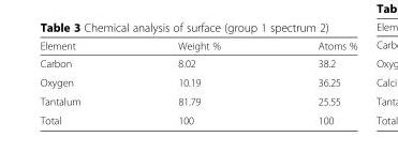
<table><thead><tr><td>Element</td><td>Weight %</td><td>Atoms %</td></tr></thead><tbody><tr><td>Carbon</td><td>8.02</td><td>38.2</td></tr><tr><td>Oxygen</td><td>10.19</td><td>36.25</td></tr><tr><td>Tantalum</td><td>81.79</td><td>25.55</td></tr><tr><td>Total</td><td>100</td><td>100</td></tr></tbody></table>